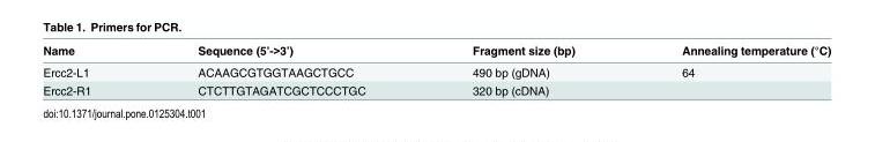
<table><thead><tr><td>Name</td><td>Sequence (5’-&gt;3’)</td><td>Fragment size (bp)</td><td>Annealing temperature (°C)</td></tr></thead><tbody><tr><td>Ercc2-L1</td><td>ACAAGCGTGGTAAGCTGCC</td><td>490 bp (gDNA)</td><td>64</td></tr><tr><td>Ercc2-R1</td><td>CTCTTGTAGATCGCTCCCTGC</td><td>320 bp (cDNA)</td><td></td></tr></tbody></table>